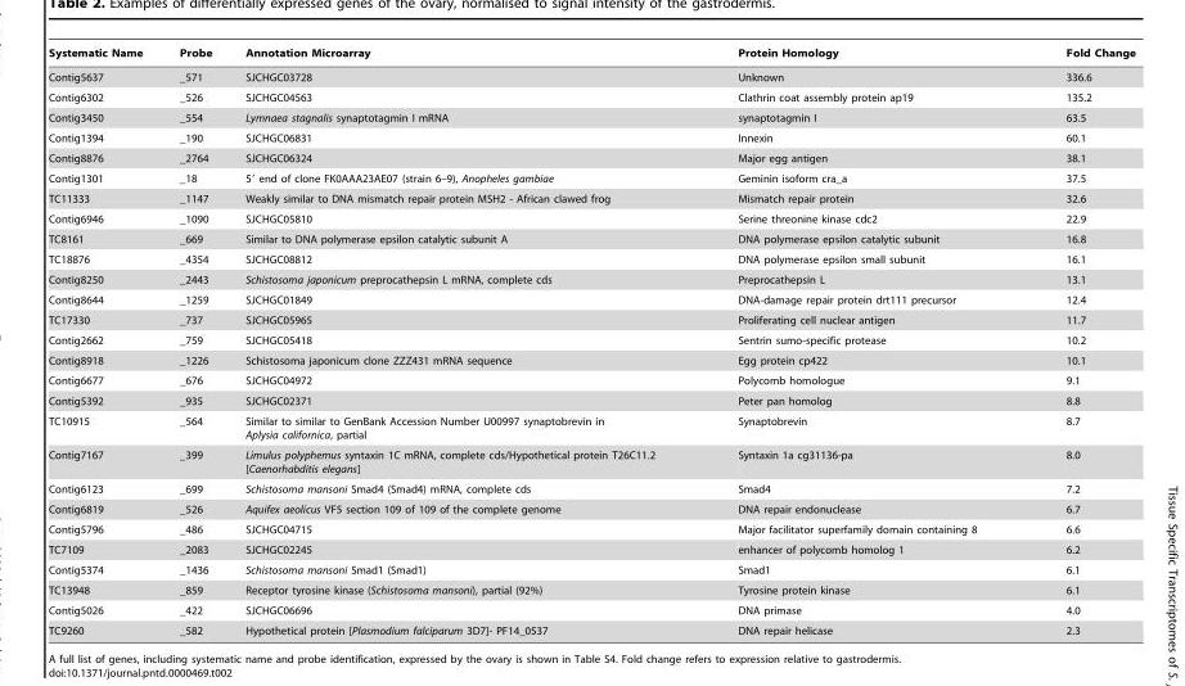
<table><thead><tr><td>Systematic Name</td><td>Probe</td><td>Annotation Microarray</td><td>Protein Homology</td><td>Fold Change</td></tr></thead><tbody><tr><td>Contig5637</td><td>_571</td><td>SJCHGC03728</td><td>Unknown</td><td>336.6</td></tr><tr><td>Contig6302</td><td>_526</td><td>SJCHGC04563</td><td>Clathrin coat assembly protein ap19</td><td>135.2</td></tr><tr><td>Contig3450</td><td>_554</td><td>Lymnaea stagnalis synaptotagmin I mRNA</td><td>synaptotagmin I</td><td>63.5</td></tr><tr><td>Contig1394</td><td>_190</td><td>SJCHGC06831</td><td>Innexin</td><td>60.1</td></tr><tr><td>Contig8876</td><td>_2764</td><td>SJCHGC06324</td><td>Major egg antigen</td><td>38.1</td></tr><tr><td>Contig1301</td><td>_18</td><td>5′ end of clone FK0AAA23AE07 (strain 6–9), Anopheles gambiae</td><td>Geminin isoform cra_a</td><td>37.5</td></tr><tr><td>TC11333</td><td>_1147</td><td>Weakly similar to DNA mismatch repair protein MSH2 - African clawed frog</td><td>Mismatch repair protein</td><td>32.6</td></tr><tr><td>Contig6946</td><td>_1090</td><td>SJCHGC05810</td><td>Serine threonine kinase cdc2</td><td>22.9</td></tr><tr><td>TC8161</td><td>_669</td><td>Similar to DNA polymerase epsilon catalytic subunit A</td><td>DNA polymerase epsilon catalytic subunit</td><td>16.8</td></tr><tr><td>TC18876</td><td>_4354</td><td>SJCHGC08812</td><td>DNA polymerase epsilon small subunit</td><td>16.1</td></tr><tr><td>Contig8250</td><td>_2443</td><td>Schistosoma japonicum preprocathepsin L mRNA, complete cds</td><td>Preprocathepsin L</td><td>13.1</td></tr><tr><td>Contig8644</td><td>_1259</td><td>SJCHGC01849</td><td>DNA-damage repair protein drt111 precursor</td><td>12.4</td></tr><tr><td>TC17330</td><td>_737</td><td>SJCHGC05965</td><td>Proliferating cell nuclear antigen</td><td>11.7</td></tr><tr><td>Contig2662</td><td>_759</td><td>SJCHGC05418</td><td>Sentrin sumo-specific protease</td><td>10.2</td></tr><tr><td>Contig8918</td><td>_1226</td><td>Schistosoma japonicum clone ZZZ431 mRNA sequence</td><td>Egg protein cp422</td><td>10.1</td></tr><tr><td>Contig6677</td><td>_676</td><td>SJCHGC04972</td><td>Polycomb homologue</td><td>9.1</td></tr><tr><td>Contig5392</td><td>_935</td><td>SJCHGC02371</td><td>Peter pan homolog</td><td>8.8</td></tr><tr><td>TC10915</td><td>_564</td><td>Similar to similar to GenBank Accession Number U00997 synaptobrevin in Aplysia californica, partial</td><td>Synaptobrevin</td><td>8.7</td></tr><tr><td>Contig7167</td><td>_399</td><td>Limulus polyphemus syntaxin 1C mRNA, complete cds/Hypothetical protein T26C11.2 [Caenorhabditis elegans]</td><td>Syntaxin 1a cg31136-pa</td><td>8.0</td></tr><tr><td>Contig6123</td><td>_699</td><td>Schistosoma mansoni Smad4 (Smad4) mRNA, complete cds</td><td>Smad4</td><td>7.2</td></tr><tr><td>Contig6819</td><td>_526</td><td>Aquifex aeolicus VF5 section 109 of 109 of the complete genome</td><td>DNA repair endonuclease</td><td>6.7</td></tr><tr><td>Contig5796</td><td>_486</td><td>SJCHGC04715</td><td>Major facilitator superfamily domain containing 8</td><td>6.6</td></tr><tr><td>TC7109</td><td>_2083</td><td>SJCHGC02245</td><td>enhancer of polycomb homolog 1</td><td>6.2</td></tr><tr><td>Contig5374</td><td>_1436</td><td>Schistosoma mansoni Smad1 (Smad1)</td><td>Smad1</td><td>6.1</td></tr><tr><td>TC13948</td><td>_859</td><td>Receptor tyrosine kinase (Schistosoma mansoni), partial (92%)</td><td>Tyrosine protein kinase</td><td>6.1</td></tr><tr><td>Contig5026</td><td>_422</td><td>SJCHGC06696</td><td>DNA primase</td><td>4.0</td></tr><tr><td>TC9260</td><td>_582</td><td>Hypothetical protein [Plasmodium falciparum 3D7]- PF14_0537</td><td>DNA repair helicase</td><td>2.3</td></tr></tbody></table>